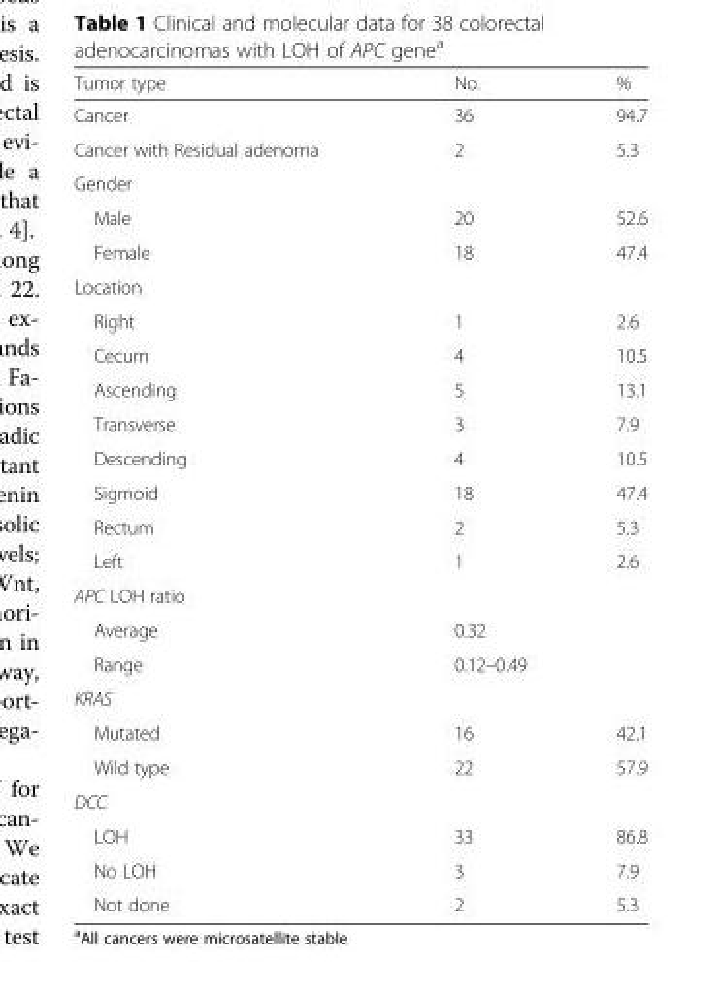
<table><thead><tr><td>Tumor type</td><td>No.</td><td>%</td></tr></thead><tbody><tr><td>Cancer</td><td>36</td><td>94.7</td></tr><tr><td>Cancer with Residual adenoma</td><td>2</td><td>5.3</td></tr><tr><td colspan="3">Gender</td></tr><tr><td>Male</td><td>20</td><td>52.6</td></tr><tr><td>Female</td><td>18</td><td>47.4</td></tr><tr><td colspan="3">Location</td></tr><tr><td>Right</td><td>1</td><td>2.6</td></tr><tr><td>Cecum</td><td>4</td><td>10.5</td></tr><tr><td>Ascending</td><td>5</td><td>13.1</td></tr><tr><td>Transverse</td><td>3</td><td>7.9</td></tr><tr><td>Descending</td><td>4</td><td>10.5</td></tr><tr><td>Sigmoid</td><td>18</td><td>47.4</td></tr><tr><td>Rectum</td><td>2</td><td>5.3</td></tr><tr><td>Left</td><td>1</td><td>2.6</td></tr><tr><td colspan="3">APC LOH ratio</td></tr><tr><td>Average</td><td colspan="2">0.32</td></tr><tr><td>Range</td><td colspan="2">0.12–0.49</td></tr><tr><td colspan="3">KRAS</td></tr><tr><td>Mutated</td><td>16</td><td>42.1</td></tr><tr><td>Wild type</td><td>22</td><td>57.9</td></tr><tr><td colspan="3">DCC</td></tr><tr><td>LOH</td><td>33</td><td>86.8</td></tr><tr><td>No LOH</td><td>3</td><td>7.9</td></tr><tr><td>Not done</td><td>2</td><td>5.3</td></tr></tbody></table>